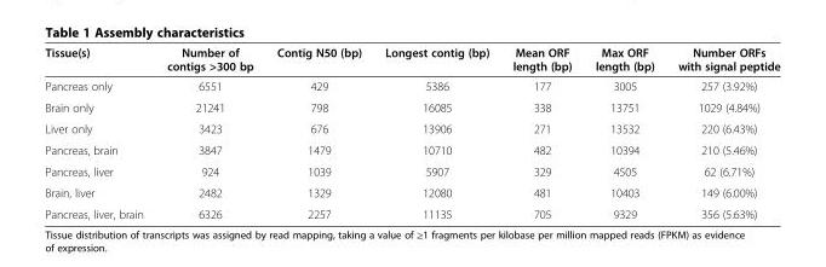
<table><thead><tr><td>Tissue(s)</td><td>Number of contigs &gt;300 bp</td><td>Contig N50 (bp)</td><td>Longest contig (bp)</td><td>Mean ORF length (bp)</td><td>Max ORF length (bp)</td><td>Number ORFs with signal peptide</td></tr></thead><tbody><tr><td>Pancreas only</td><td>6551</td><td>429</td><td>5386</td><td>177</td><td>3005</td><td>257 (3.92%)</td></tr><tr><td>Brain only</td><td>21241</td><td>798</td><td>16085</td><td>338</td><td>13751</td><td>1029 (4.84%)</td></tr><tr><td>Liver only</td><td>3423</td><td>676</td><td>13906</td><td>271</td><td>13532</td><td>220 (6.43%)</td></tr><tr><td>Pancreas, brain</td><td>3847</td><td>1479</td><td>10710</td><td>482</td><td>10394</td><td>210 (5.46%)</td></tr><tr><td>Pancreas, liver</td><td>924</td><td>1039</td><td>5907</td><td>329</td><td>4505</td><td>62 (6.71%)</td></tr><tr><td>Brain, liver</td><td>2482</td><td>1329</td><td>12080</td><td>481</td><td>10403</td><td>149 (6.00%)</td></tr><tr><td>Pancreas, liver, brain</td><td>6326</td><td>2257</td><td>11135</td><td>705</td><td>9329</td><td>356 (5.63%)</td></tr></tbody></table>